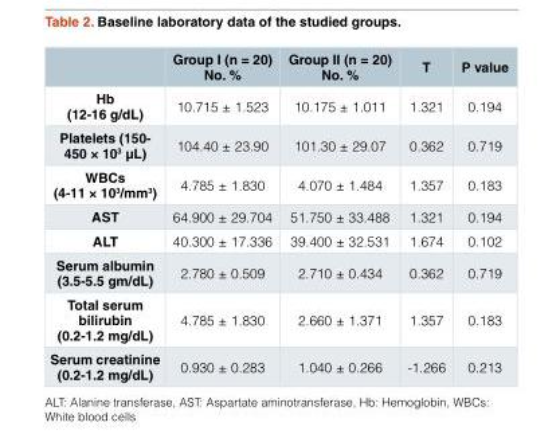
<table><thead><tr><td></td><td>Group I (n = 20) No. %</td><td>Group II (n = 20) No. %</td><td>T</td><td>P value</td></tr></thead><tbody><tr><td>Hb (12-16 g/dL)</td><td>10.715 ± 1.523</td><td>10.175 ± 1.011</td><td>1.321</td><td>0.194</td></tr><tr><td>Platelets (150- 450 × 10<sup>3</sup> µL)</td><td>104.40 ± 23.90</td><td>101.30 ± 29.07</td><td>0.362</td><td>0.719</td></tr><tr><td>WBCs (4-11 × 10<sup>3</sup>/mm<sup>3</sup>)</td><td>4.785 ± 1.830</td><td>4.070 ± 1.484</td><td>1.357</td><td>0.183</td></tr><tr><td>AST</td><td>64.900 ± 29.704</td><td>51.750 ± 33.488</td><td>1.321</td><td>0.194</td></tr><tr><td>ALT</td><td>40.300 ± 17.336</td><td>39.400 ± 32.531</td><td>1.674</td><td>0.102</td></tr><tr><td>Serum albumin (3.5-5.5 gm/dL)</td><td>2.780 ± 0.509</td><td>2.710 ± 0.434</td><td>0.362</td><td>0.719</td></tr><tr><td>Total serum bilirubin (0.2-1.2 mg/dL)</td><td>4.785 ± 1.830</td><td>2.660 ± 1.371</td><td>1.357</td><td>0.183</td></tr><tr><td>Serum creatinine (0.2-1.2 mg/dL)</td><td>0.930 ± 0.283</td><td>1.040 ± 0.266</td><td>-1.266</td><td>0.213</td></tr></tbody></table>